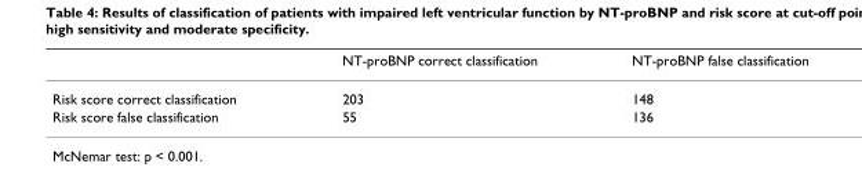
<table><thead><tr><td></td><td>NT-proBNP correct classification</td><td>NT-proBNP false classification</td></tr></thead><tbody><tr><td>Risk score correct classification</td><td>203</td><td>148</td></tr><tr><td>Risk score false classification</td><td>55</td><td>136</td></tr></tbody></table>